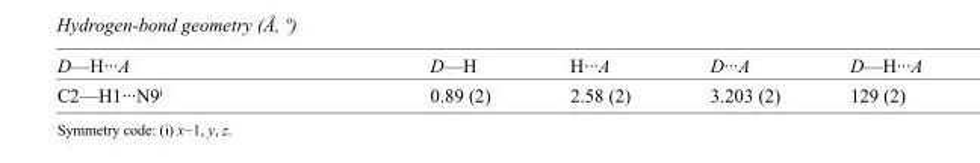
<table><tbody><tr><td>D—H···A</td><td>D—H</td><td>H···A</td><td>D···A</td><td>D—H···A</td></tr><tr><td>C2—H1···N9<sup>i</sup></td><td>0.89 (2)</td><td>2.58 (2)</td><td>3.203 (2)</td><td>129 (2)</td></tr></tbody></table>